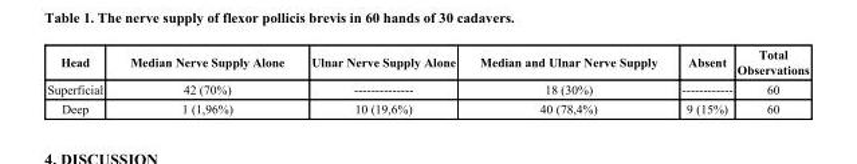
<table><thead><tr><td>Head</td><td>Median Nerve Supply Alone</td><td>Ulnar Nerve Supply Alone</td><td>Median and Ulnar Nerve Supply</td><td>Absent</td><td>Total Observations</td></tr></thead><tbody><tr><td>Superficial</td><td>42 (70%)</td><td>--------------</td><td>18 (30%)</td><td>------------</td><td>60</td></tr><tr><td>Deep</td><td>1 (1,96%)</td><td>10 (19,6%)</td><td>40 (78,4%)</td><td>9 (15%)</td><td>60</td></tr></tbody></table>